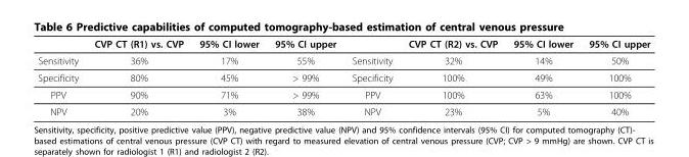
<table><thead><tr><td></td><td>CVP CT (R1) vs. CVP</td><td>95% CI lower</td><td>95% CI upper</td><td></td><td>CVP CT (R2) vs. CVP</td><td>95% CI lower</td><td>95% CI upper</td></tr></thead><tbody><tr><td>Sensitivity</td><td>36%</td><td>17%</td><td>55%</td><td>Sensitivity</td><td>32%</td><td>14%</td><td>50%</td></tr><tr><td>Specificity</td><td>80%</td><td>45%</td><td>&gt; 99%</td><td>Specificity</td><td>100%</td><td>49%</td><td>100%</td></tr><tr><td>PPV</td><td>90%</td><td>71%</td><td>&gt; 99%</td><td>PPV</td><td>100%</td><td>63%</td><td>100%</td></tr><tr><td>NPV</td><td>20%</td><td>3%</td><td>38%</td><td>NPV</td><td>23%</td><td>5%</td><td>40%</td></tr></tbody></table>